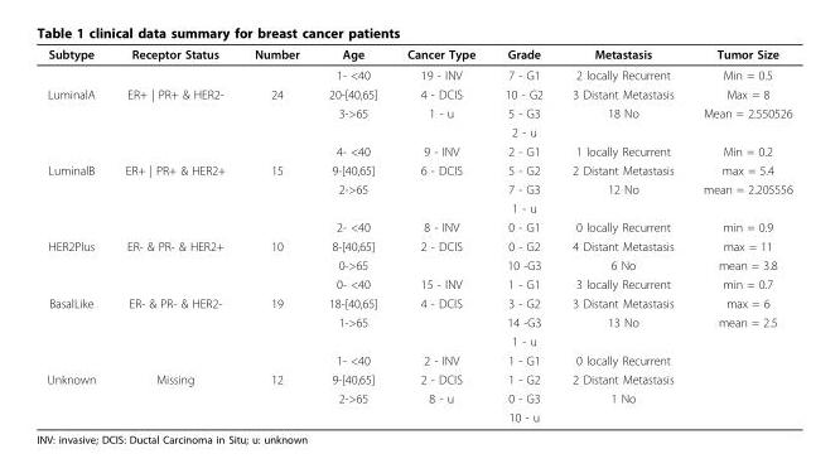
<table><thead><tr><td>Subtype</td><td>Receptor Status</td><td>Number</td><td>Age</td><td>Cancer Type</td><td>Grade</td><td>Metastasis</td><td>Tumor Size</td></tr></thead><tbody><tr><td></td><td></td><td></td><td>1- &lt;40</td><td>19 - INV</td><td>7 - G1</td><td>2 locally Recurrent</td><td>Min = 0.5</td></tr><tr><td rowspan="4">LuminalA</td><td>ER+ | PR+ &amp; HER2-</td><td>24</td><td>20-[40,65]</td><td>4 - DCIS</td><td>10 - G2</td><td>3 Distant Metastasis</td><td>Max = 8</td></tr><tr><td></td><td></td><td>3-&gt;65</td><td>1 - u</td><td>5 - G3</td><td>18 No</td><td>Mean = 2.550526</td></tr><tr><td></td><td></td><td></td><td></td><td>2 - u</td><td></td><td></td></tr><tr><td></td><td></td><td>4- &lt;40</td><td>9 - INV</td><td>2 - G1</td><td>1 locally Recurrent</td><td>Min = 0.2</td></tr><tr><td rowspan="4">LuminalB</td><td>ER+ | PR+ &amp; HER2+</td><td>15</td><td>9-[40,65]</td><td>6 - DCIS</td><td>5 - G2</td><td>2 Distant Metastasis</td><td>max = 5.4</td></tr><tr><td></td><td></td><td>2-&gt;65</td><td></td><td>7 - G3</td><td>12 No</td><td>mean = 2.205556</td></tr><tr><td></td><td></td><td></td><td></td><td>1 - u</td><td></td><td></td></tr><tr><td></td><td></td><td>2- &lt;40</td><td>8 - INV</td><td>0 - G1</td><td>0 locally Recurrent</td><td>min = 0.9</td></tr><tr><td rowspan="3">HER2Plus</td><td>ER- &amp; PR- &amp; HER2+</td><td>10</td><td>8-[40,65]</td><td>2 - DCIS</td><td>0 - G2</td><td>4 Distant Metastasis</td><td>max = 11</td></tr><tr><td></td><td></td><td>0-&gt;65</td><td></td><td>10 -G3</td><td>6 No</td><td>mean = 3.8</td></tr><tr><td></td><td></td><td>0- &lt;40</td><td>15 - INV</td><td>1 - G1</td><td>3 locally Recurrent</td><td>min = 0.7</td></tr><tr><td rowspan="4">BasalLike</td><td>ER- &amp; PR- &amp; HER2-</td><td>19</td><td>18-[40,65]</td><td>4 - DCIS</td><td>3 - G2</td><td>3 Distant Metastasis</td><td>max = 6</td></tr><tr><td></td><td></td><td>1-&gt;65</td><td></td><td>14 -G3</td><td>13 No</td><td>mean = 2.5</td></tr><tr><td></td><td></td><td></td><td></td><td>1 - u</td><td></td><td></td></tr><tr><td></td><td></td><td>1- &lt;40</td><td>2 - INV</td><td>1 - G1</td><td>0 locally Recurrent</td><td></td></tr><tr><td rowspan="3">Unknown</td><td>Missing</td><td>12</td><td>9-[40,65]</td><td>2 - DCIS</td><td>1 - G2</td><td>2 Distant Metastasis</td><td></td></tr><tr><td></td><td></td><td>2-&gt;65</td><td>8 - u</td><td>0 - G3</td><td>1 No</td><td></td></tr><tr><td></td><td></td><td></td><td></td><td>10 - u</td><td></td><td></td></tr></tbody></table>